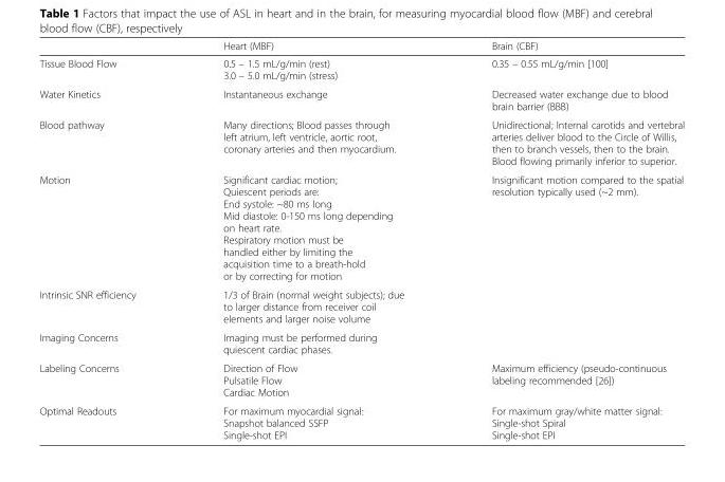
<table><thead><tr><td></td><td>Heart (MBF)</td><td>Brain (CBF)</td></tr></thead><tbody><tr><td>Tissue Blood Flow</td><td>0.5 – 1.5 mL/g/min (rest) 3.0 – 5.0 mL/g/min (stress)</td><td>0.35 – 0.55 mL/g/min [100]</td></tr><tr><td>Water Kinetics</td><td>Instantaneous exchange</td><td>Decreased water exchange due to blood brain barrier (BBB)</td></tr><tr><td>Blood pathway</td><td>Many directions; Blood passes through left atrium, left ventricle, aortic root, coronary arteries and then myocardium.</td><td>Unidirectional; Internal carotids and vertebral arteries deliver blood to the Circle of Willis, then to branch vessels, then to the brain. Blood flowing primarily inferior to superior.</td></tr><tr><td>Motion</td><td>Significant cardiac motion; Quiescent periods are: End systole: ~80 ms long Mid diastole: 0-150 ms long depending on heart rate. Respiratory motion must be handled either by limiting the acquisition time to a breath-hold or by correcting for motion</td><td>Insignificant motion compared to the spatial resolution typically used (~2 mm).</td></tr><tr><td>Intrinsic SNR efficiency</td><td>1/3 of Brain (normal weight subjects); due to larger distance from receiver coil elements and larger noise volume</td><td></td></tr><tr><td>Imaging Concerns</td><td>Imaging must be performed during quiescent cardiac phases.</td><td></td></tr><tr><td>Labeling Concerns</td><td>Direction of Flow Pulsatile Flow Cardiac Motion</td><td>Maximum efficiency (pseudo-continuous labeling recommended [26])</td></tr><tr><td>Optimal Readouts</td><td>For maximum myocardial signal: Snapshot balanced SSFP Single-shot EPI</td><td>For maximum gray/white matter signal: Single-shot Spiral Single-shot EPI</td></tr></tbody></table>